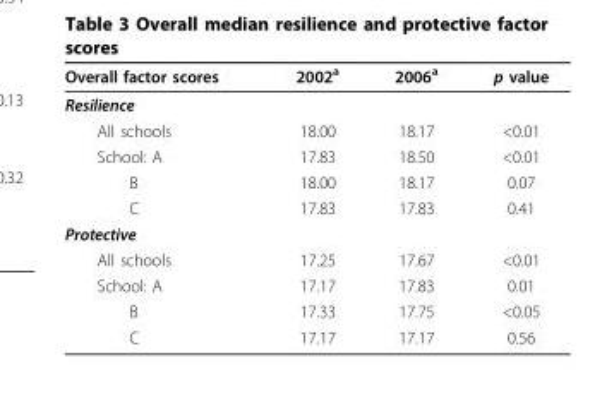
<table><thead><tr><td>Overall factor scores</td><td>2002<sup>a</sup></td><td>2006<sup>a</sup></td><td>p value</td></tr></thead><tbody><tr><td colspan="4">Resilience</td></tr><tr><td>All schools</td><td>18.00</td><td>18.17</td><td>&lt;0.01</td></tr><tr><td>School: A</td><td>17.83</td><td>18.50</td><td>&lt;0.01</td></tr><tr><td>B</td><td>18.00</td><td>18.17</td><td>0.07</td></tr><tr><td>C</td><td>17.83</td><td>17.83</td><td>0.41</td></tr><tr><td colspan="4">Protective</td></tr><tr><td>All schools</td><td>17.25</td><td>17.67</td><td>&lt;0.01</td></tr><tr><td>School: A</td><td>17.17</td><td>17.83</td><td>0.01</td></tr><tr><td>B</td><td>17.33</td><td>17.75</td><td>&lt;0.05</td></tr><tr><td>C</td><td>17.17</td><td>17.17</td><td>0.56</td></tr></tbody></table>